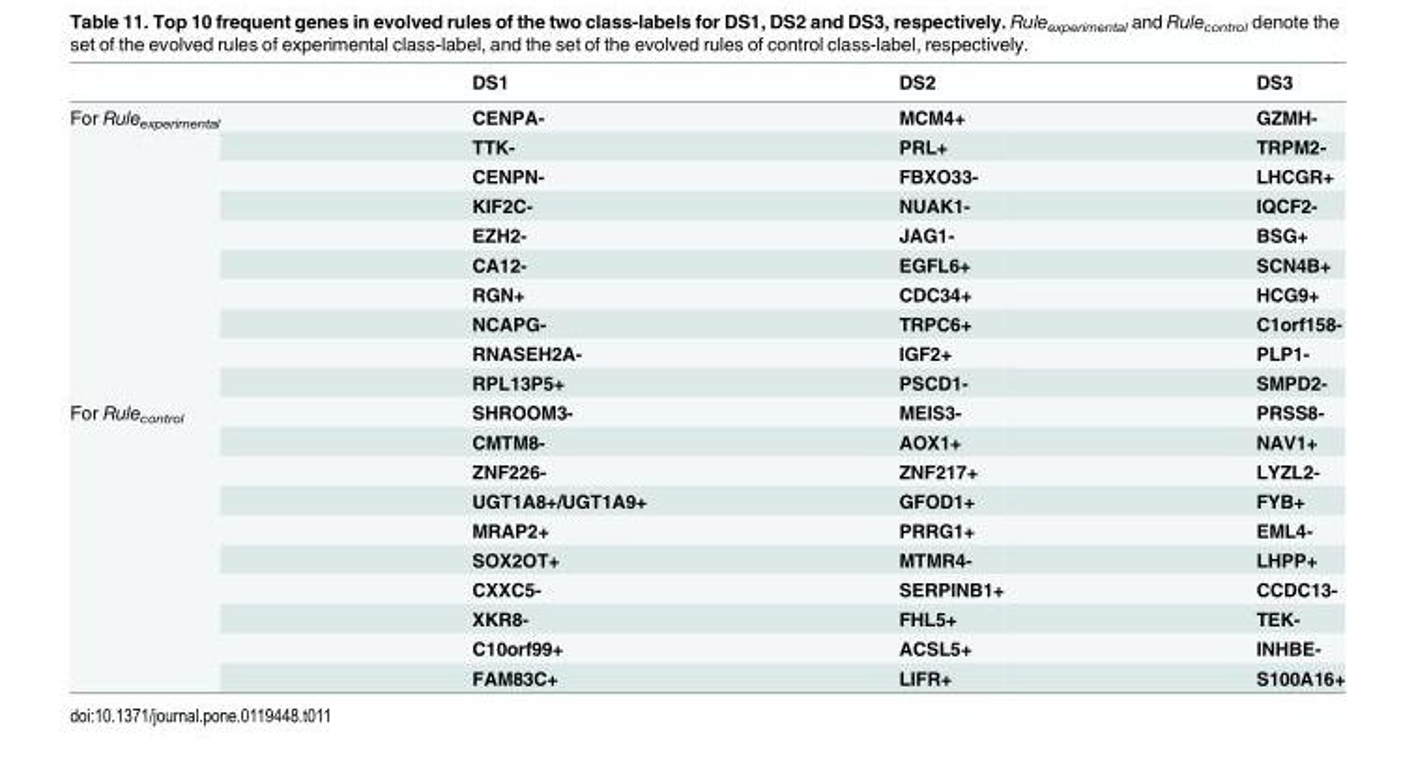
<table><thead><tr><td></td><td>DS1</td><td>DS2</td><td>DS3</td></tr></thead><tbody><tr><td rowspan="10">For Rule<sub>experimental</sub></td><td>CENPA-</td><td>MCM4+</td><td>GZMH-</td></tr><tr><td>TTK-</td><td>PRL+</td><td>TRPM2-</td></tr><tr><td>CENPN-</td><td>FBXO33-</td><td>LHCGR+</td></tr><tr><td>KIF2C-</td><td>NUAK1-</td><td>IQCF2-</td></tr><tr><td>EZH2-</td><td>JAG1-</td><td>BSG+</td></tr><tr><td>CA12-</td><td>EGFL6+</td><td>SCN4B+</td></tr><tr><td>RGN+</td><td>CDC34+</td><td>HCG9+</td></tr><tr><td>NCAPG-</td><td>TRPC6+</td><td>C1orf158-</td></tr><tr><td>RNASEH2A-</td><td>IGF2+</td><td>PLP1-</td></tr><tr><td>RPL13P5+</td><td>PSCD1-</td><td>SMPD2-</td></tr><tr><td rowspan="10">For Rule<sub>control</sub></td><td>SHROOM3-</td><td>MEIS3-</td><td>PRSS8-</td></tr><tr><td>CMTM8-</td><td>AOX1+</td><td>NAV1+</td></tr><tr><td>ZNF226-</td><td>ZNF217+</td><td>LYZL2-</td></tr><tr><td>UGT1A8+/UGT1A9+</td><td>GFOD1+</td><td>FYB+</td></tr><tr><td>MRAP2+</td><td>PRRG1+</td><td>EML4-</td></tr><tr><td>SOX2OT+</td><td>MTMR4-</td><td>LHPP+</td></tr><tr><td>CXXC5-</td><td>SERPINB1+</td><td>CCDC13-</td></tr><tr><td>XKR8-</td><td>FHL5+</td><td>TEK-</td></tr><tr><td>C10orf99+</td><td>ACSL5+</td><td>INHBE-</td></tr><tr><td>FAM83C+</td><td>LIFR+</td><td>S100A16+</td></tr></tbody></table>